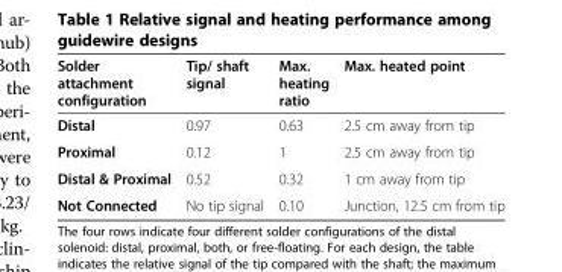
<table><thead><tr><td>Solder attachment configuration</td><td>Tip/ shaft signal</td><td>Max. heating ratio</td><td>Max. heated point</td></tr></thead><tbody><tr><td>Distal</td><td>0.97</td><td>0.63</td><td>2.5 cm away from tip</td></tr><tr><td>Proximal</td><td>0.12</td><td>1</td><td>2.5 cm away from tip</td></tr><tr><td>Distal &amp; Proximal</td><td>0.52</td><td>0.32</td><td>1 cm away from tip</td></tr><tr><td>Not Connected</td><td>No tip signal</td><td>0.10</td><td>Junction, 12.5 cm from tip</td></tr></tbody></table>